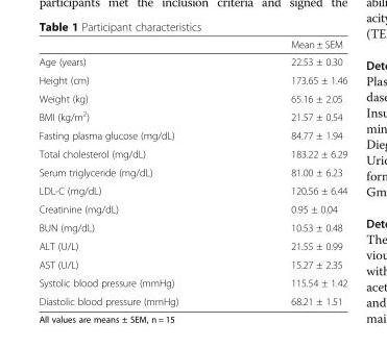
<table><thead><tr><td></td><td>Mean ± SEM</td></tr></thead><tbody><tr><td>Age (years)</td><td>22.53 ± 0.30</td></tr><tr><td>Height (cm)</td><td>173.65 ± 1.46</td></tr><tr><td>Weight (kg)</td><td>65.16 ± 2.05</td></tr><tr><td>BMI (kg/m<sup>2</sup>)</td><td>21.57 ± 0.54</td></tr><tr><td>Fasting plasma glucose (mg/dL)</td><td>84.77 ± 1.94</td></tr><tr><td>Total cholesterol (mg/dL)</td><td>183.22 ± 6.29</td></tr><tr><td>Serum triglyceride (mg/dL)</td><td>81.00 ± 6.23</td></tr><tr><td>LDL-C (mg/dL)</td><td>120.56 ± 6.44</td></tr><tr><td>Creatinine (mg/dL)</td><td>0.95 ± 0.04</td></tr><tr><td>BUN (mg/dL)</td><td>10.53 ± 0.48</td></tr><tr><td>ALT (U/L)</td><td>21.55 ± 0.99</td></tr><tr><td>AST (U/L)</td><td>15.27 ± 2.35</td></tr><tr><td>Systolic blood pressure (mmHg)</td><td>115.54 ± 1.42</td></tr><tr><td>Diastolic blood pressure (mmHg)</td><td>68.21 ± 1.51</td></tr></tbody></table>